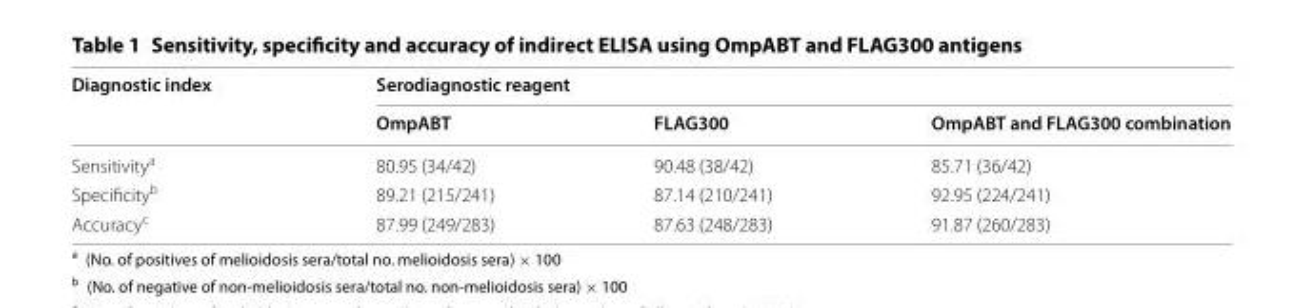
<table><thead><tr><td rowspan="2">Diagnostic index</td><td colspan="3">Serodiagnostic reagent</td></tr><tr><td>OmpABT</td><td>FLAG300</td><td>OmpABT and FLAG300 combination</td></tr></thead><tbody><tr><td>Sensitivity<sup>a</sup></td><td>80.95 (34/42)</td><td>90.48 (38/42)</td><td>85.71 (36/42)</td></tr><tr><td>Specificity<sup>b</sup></td><td>89.21 (215/241)</td><td>87.14 (210/241)</td><td>92.95 (224/241)</td></tr><tr><td>Accuracy<sup>c</sup></td><td>87.99 (249/283)</td><td>87.63 (248/283)</td><td>91.87 (260/283)</td></tr></tbody></table>